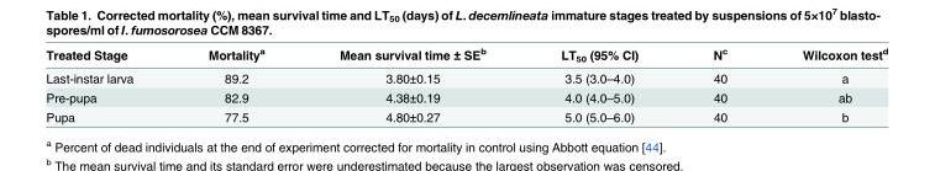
<table><thead><tr><td>Treated Stage</td><td>Mortality<sup>a</sup></td><td>Mean survival time ± SE<sup>b</sup></td><td>LT<sub>50</sub> (95% CI)</td><td>N<sup>c</sup></td><td>Wilcoxon test<sup>d</sup></td></tr></thead><tbody><tr><td>Last-instar larva</td><td>89.2</td><td>3.80±0.15</td><td>3.5 (3.0–4.0)</td><td>40</td><td>a</td></tr><tr><td>Pre-pupa</td><td>82.9</td><td>4.38±0.19</td><td>4.0 (4.0–5.0)</td><td>40</td><td>ab</td></tr><tr><td>Pupa</td><td>77.5</td><td>4.80±0.27</td><td>5.0 (5.0–6.0)</td><td>40</td><td>b</td></tr></tbody></table>